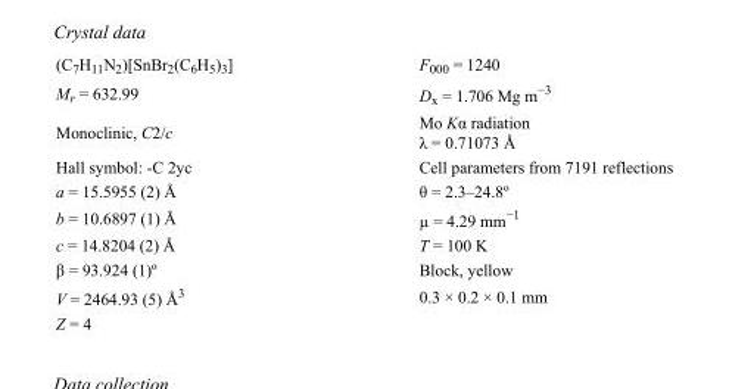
<table><tbody><tr><td>(C<sub>7</sub>H<sub>11</sub>N<sub>2</sub>)[SnBr<sub>2</sub>(C<sub>6</sub>H<sub>5</sub>)<sub>3</sub>]</td><td>F<sub>000</sub> = 1240</td></tr><tr><td>M<sub>r</sub> = 632.99</td><td>D<sub>x</sub> = 1.706 Mg m<sup>−3</sup></td></tr><tr><td>Monoclinic, C2/c</td><td>Mo Kα radiation λ = 0.71073 Å</td></tr><tr><td>Hall symbol: -C 2yc</td><td>Cell parameters from 7191 reflections</td></tr><tr><td>a = 15.5955 (2) Å</td><td>θ = 2.3–24.8º</td></tr><tr><td>b = 10.6897 (1) Å</td><td>µ = 4.29 mm<sup>−1</sup></td></tr><tr><td>c = 14.8204 (2) Å</td><td>T = 100 K</td></tr><tr><td>β = 93.924 (1)º</td><td>Block, yellow</td></tr><tr><td>V = 2464.93 (5) Å<sup>3</sup></td><td>0.3 × 0.2 × 0.1 mm</td></tr><tr><td>Z = 4</td><td></td></tr></tbody></table>